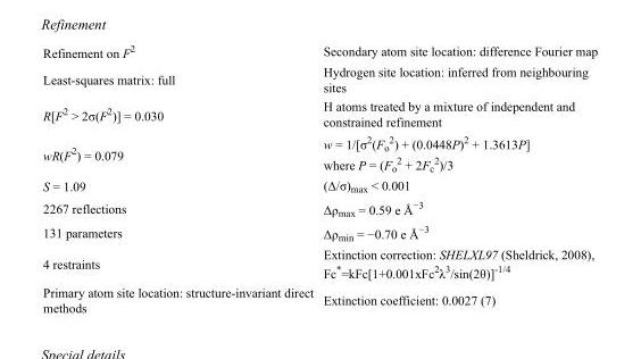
<table><tbody><tr><td>Refinement on F<sup>2</sup></td><td>Secondary atom site location: difference Fourier map</td></tr><tr><td>Least-squares matrix: full</td><td>Hydrogen site location: inferred from neighbouring sites</td></tr><tr><td>R[F<sup>2</sup> &gt; 2σ(F<sup>2</sup>)] = 0.030</td><td>H atoms treated by a mixture of independent and constrained refinement</td></tr><tr><td>wR(F<sup>2</sup>) = 0.079</td><td>w = 1/[σ<sup>2</sup>(F<sub>o</sub> <sup>2</sup>) + (0.0448P)<sup>2</sup> + 1.3613P] where P = (F<sub>o</sub> <sup>2</sup> + 2F<sub>c</sub> <sup>2</sup>)/3</td></tr><tr><td>S = 1.09</td><td>(Δ/σ)<sub>max</sub> &lt; 0.001</td></tr><tr><td>2267 reflections</td><td>Δρ<sub>max</sub> = 0.59 e Å<sup>−3</sup></td></tr><tr><td>131 parameters</td><td>Δρ<sub>min</sub> = −0.70 e Å<sup>−3</sup></td></tr><tr><td>4 restraints</td><td>Extinction correction: SHELXL97 (Sheldrick, 2008), Fc*=kFc[1+0.001xFc<sup>2</sup>λ<sup>3</sup>/sin(2θ)]<sup>-1/4</sup></td></tr><tr><td>Primary atom site location: structure-invariant direct methods</td><td>Extinction coefficient: 0.0027 (7)</td></tr></tbody></table>